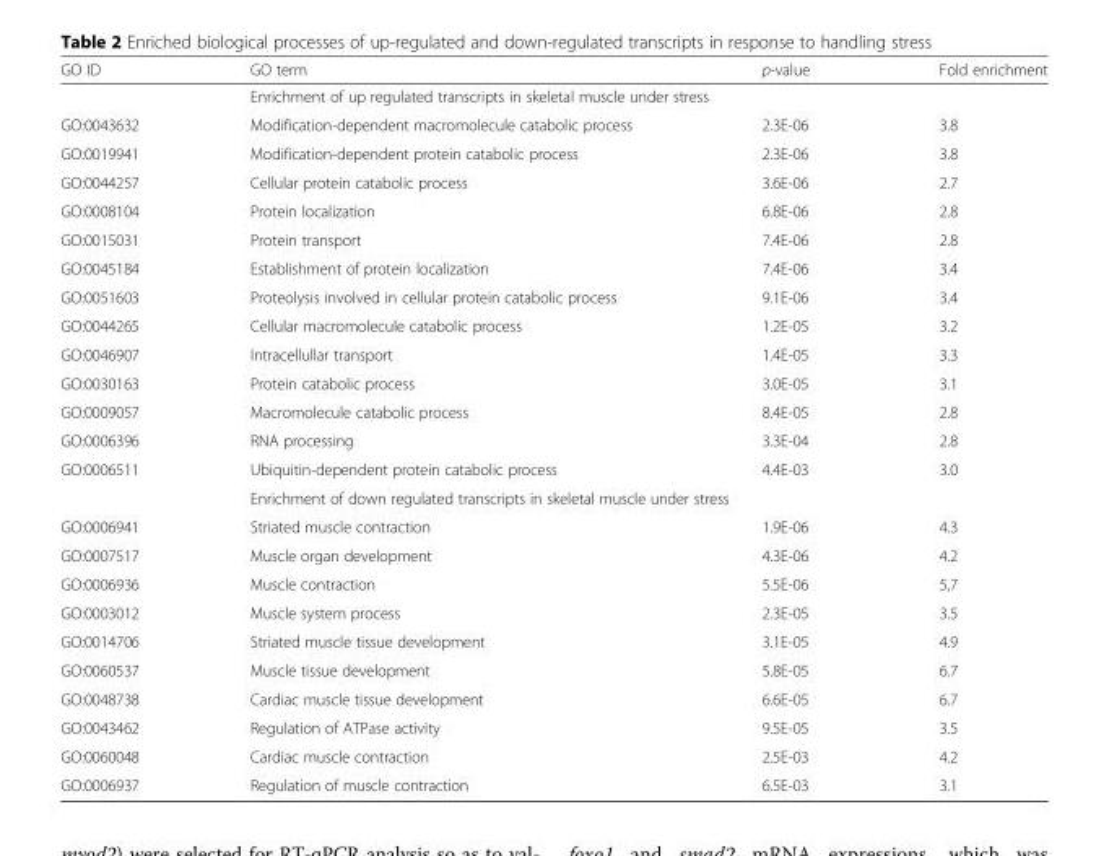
<table><thead><tr><td>GO ID</td><td>GO term</td><td>p-value</td><td>Fold enrichment</td></tr></thead><tbody><tr><td></td><td colspan="2">Enrichment of up regulated transcripts in skeletal muscle under stress</td><td></td></tr><tr><td>GO:0043632</td><td>Modification-dependent macromolecule catabolic process</td><td>2.3E-06</td><td>3.8</td></tr><tr><td>GO:0019941</td><td>Modification-dependent protein catabolic process</td><td>2.3E-06</td><td>3.8</td></tr><tr><td>GO:0044257</td><td>Cellular protein catabolic process</td><td>3.6E-06</td><td>2.7</td></tr><tr><td>GO:0008104</td><td>Protein localization</td><td>6.8E-06</td><td>2.8</td></tr><tr><td>GO:0015031</td><td>Protein transport</td><td>7.4E-06</td><td>2.8</td></tr><tr><td>GO:0045184</td><td>Establishment of protein localization</td><td>7.4E-06</td><td>3.4</td></tr><tr><td>GO:0051603</td><td>Proteolysis involved in cellular protein catabolic process</td><td>9.1E-06</td><td>3.4</td></tr><tr><td>GO:0044265</td><td>Cellular macromolecule catabolic process</td><td>1.2E-05</td><td>3.2</td></tr><tr><td>GO:0046907</td><td>Intracellullar transport</td><td>1.4E-05</td><td>3.3</td></tr><tr><td>GO:0030163</td><td>Protein catabolic process</td><td>3.0E-05</td><td>3.1</td></tr><tr><td>GO:0009057</td><td>Macromolecule catabolic process</td><td>8.4E-05</td><td>2.8</td></tr><tr><td>GO:0006396</td><td>RNA processing</td><td>3.3E-04</td><td>2.8</td></tr><tr><td rowspan="2">GO:0006511</td><td>Ubiquitin-dependent protein catabolic process</td><td>4.4E-03</td><td>3.0</td></tr><tr><td colspan="2">Enrichment of down regulated transcripts in skeletal muscle under stress</td><td></td></tr><tr><td>GO:0006941</td><td>Striated muscle contraction</td><td>1.9E-06</td><td>4.3</td></tr><tr><td>GO:0007517</td><td>Muscle organ development</td><td>4.3E-06</td><td>4.2</td></tr><tr><td>GO:0006936</td><td>Muscle contraction</td><td>5.5E-06</td><td>5,7</td></tr><tr><td>GO:0003012</td><td>Muscle system process</td><td>2.3E-05</td><td>3.5</td></tr><tr><td>GO:0014706</td><td>Striated muscle tissue development</td><td>3.1E-05</td><td>4.9</td></tr><tr><td>GO:0060537</td><td>Muscle tissue development</td><td>5.8E-05</td><td>6.7</td></tr><tr><td>GO:0048738</td><td>Cardiac muscle tissue development</td><td>6.6E-05</td><td>6.7</td></tr><tr><td>GO:0043462</td><td>Regulation of ATPase activity</td><td>9.5E-05</td><td>3.5</td></tr><tr><td>GO:0060048</td><td>Cardiac muscle contraction</td><td>2.5E-03</td><td>4.2</td></tr><tr><td>GO:0006937</td><td>Regulation of muscle contraction</td><td>6.5E-03</td><td>3.1</td></tr></tbody></table>